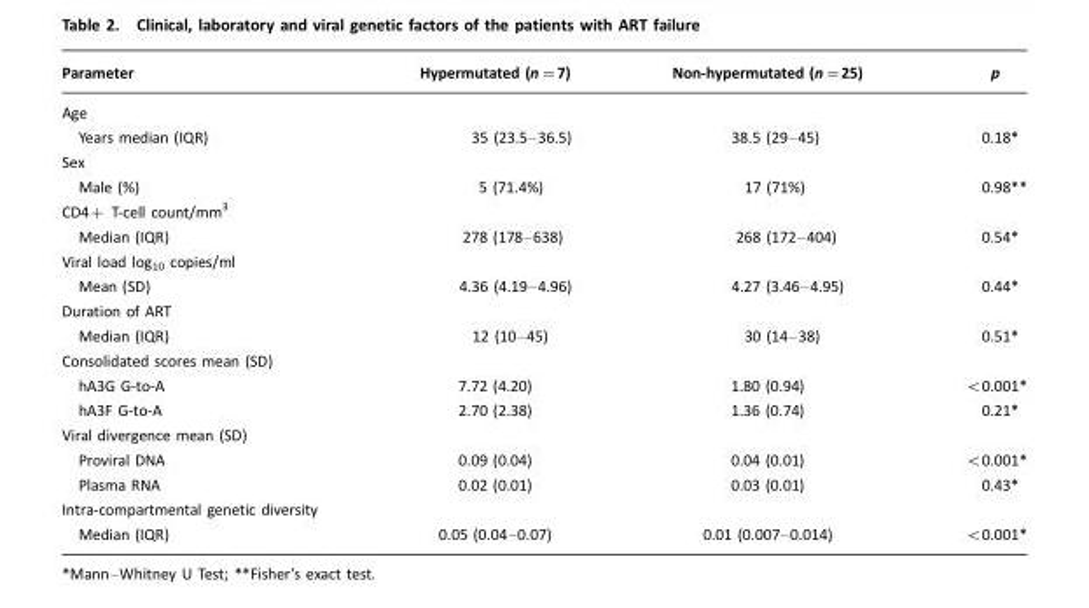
<table><thead><tr><td>Parameter</td><td>Hypermutated (n=7)</td><td>Non-hypermutated (n=25)</td><td>p</td></tr></thead><tbody><tr><td colspan="4">Age</td></tr><tr><td>Years median (IQR)</td><td>35 (23.5–36.5)</td><td>38.5 (29–45)</td><td>0.18*</td></tr><tr><td colspan="4">Sex</td></tr><tr><td>Male (%)</td><td>5 (71.4%)</td><td>17 (71%)</td><td>0.98**</td></tr><tr><td colspan="4">CD4+ T-cell count/mm<sup>3</sup></td></tr><tr><td>Median (IQR)</td><td>278 (178–638)</td><td>268 (172–404)</td><td>0.54*</td></tr><tr><td colspan="4">Viral load log<sub>10</sub> copies/ml</td></tr><tr><td>Mean (SD)</td><td>4.36 (4.19–4.96)</td><td>4.27 (3.46–4.95)</td><td>0.44*</td></tr><tr><td colspan="4">Duration of ART</td></tr><tr><td>Median (IQR)</td><td>12 (10–45)</td><td>30 (14–38)</td><td>0.51*</td></tr><tr><td colspan="4">Consolidated scores mean (SD)</td></tr><tr><td>hA3G G-to-A</td><td>7.72 (4.20)</td><td>1.80 (0.94)</td><td>&lt;0.001*</td></tr><tr><td>hA3F G-to-A</td><td>2.70 (2.38)</td><td>1.36 (0.74)</td><td>0.21*</td></tr><tr><td colspan="4">Viral divergence mean (SD)</td></tr><tr><td>Proviral DNA</td><td>0.09 (0.04)</td><td>0.04 (0.01)</td><td>&lt;0.001*</td></tr><tr><td>Plasma RNA</td><td>0.02 (0.01)</td><td>0.03 (0.01)</td><td>0.43*</td></tr><tr><td colspan="4">Intra-compartmental genetic diversity</td></tr><tr><td>Median (IQR)</td><td>0.05 (0.04–0.07)</td><td>0.01 (0.007–0.014)</td><td>&lt;0.001*</td></tr></tbody></table>